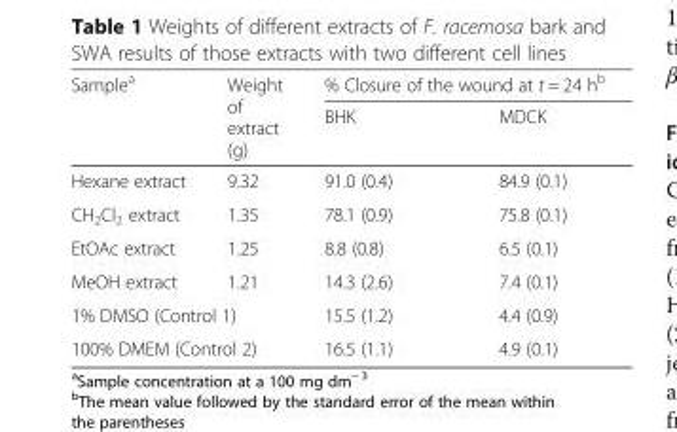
<table><thead><tr><td rowspan="2">Sample<sup>a</sup></td><td rowspan="2">Weight of extract (g)</td><td colspan="2">% Closure of the wound at t = 24 h<sup>b</sup></td></tr><tr><td>BHK</td><td>MDCK</td></tr></thead><tbody><tr><td>Hexane extract</td><td>9.32</td><td>91.0 (0.4)</td><td>84.9 (0.1)</td></tr><tr><td>CH<sub>2</sub>Cl<sub>2</sub> extract</td><td>1.35</td><td>78.1 (0.9)</td><td>75.8 (0.1)</td></tr><tr><td>EtOAc extract</td><td>1.25</td><td>8.8 (0.8)</td><td>6.5 (0.1)</td></tr><tr><td>MeOH extract</td><td>1.21</td><td>14.3 (2.6)</td><td>7.4 (0.1)</td></tr><tr><td colspan="2">1% DMSO (Control 1)</td><td>15.5 (1.2)</td><td>4.4 (0.9)</td></tr><tr><td colspan="2">100% DMEM (Control 2)</td><td>16.5 (1.1)</td><td>4.9 (0.1)</td></tr></tbody></table>